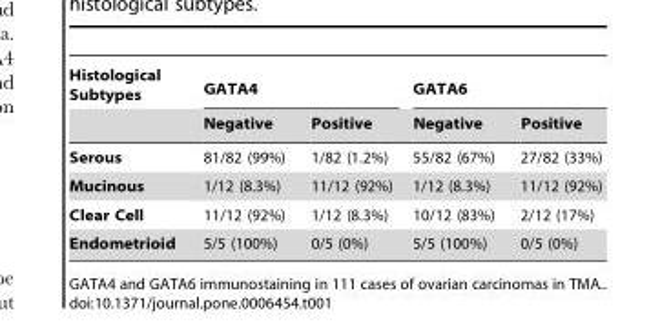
<table><thead><tr><td rowspan="2">Histological Subtypes</td><td colspan="2">GATA4</td><td colspan="2">GATA6</td></tr><tr><td>Negative</td><td>Positive</td><td>Negative</td><td>Positive</td></tr></thead><tbody><tr><td>Serous</td><td>81/82 (99%)</td><td>1/82 (1.2%)</td><td>55/82 (67%)</td><td>27/82 (33%)</td></tr><tr><td>Mucinous</td><td>1/12 (8.3%)</td><td>11/12 (92%)</td><td>1/12 (8.3%)</td><td>11/12 (92%)</td></tr><tr><td>Clear Cell</td><td>11/12 (92%)</td><td>1/12 (8.3%)</td><td>10/12 (83%)</td><td>2/12 (17%)</td></tr><tr><td>Endometrioid</td><td>5/5 (100%)</td><td>0/5 (0%)</td><td>5/5 (100%)</td><td>0/5 (0%)</td></tr></tbody></table>